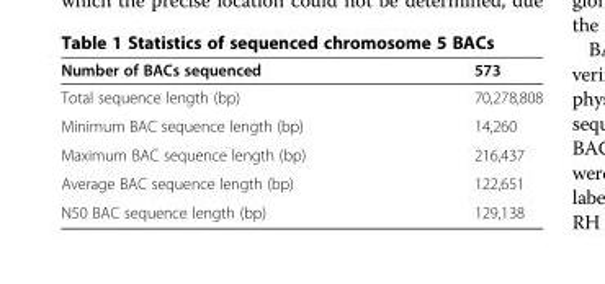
<table><thead><tr><td>Number of BACs sequenced</td><td>573</td></tr></thead><tbody><tr><td>Total sequence length (bp)</td><td>70,278,808</td></tr><tr><td>Minimum BAC sequence length (bp)</td><td>14,260</td></tr><tr><td>Maximum BAC sequence length (bp)</td><td>216,437</td></tr><tr><td>Average BAC sequence length (bp)</td><td>122,651</td></tr><tr><td>N50 BAC sequence length (bp)</td><td>129,138</td></tr></tbody></table>